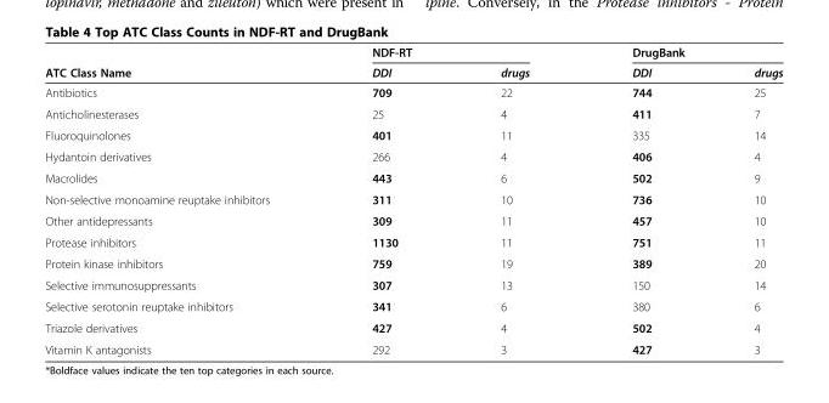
<table><thead><tr><td rowspan="2">ATC Class Name</td><td colspan="2">NDF-RT</td><td colspan="2">DrugBank</td></tr><tr><td>DDI</td><td>drugs</td><td>DDI</td><td>drugs</td></tr></thead><tbody><tr><td>Antibiotics</td><td>709</td><td>22</td><td>744</td><td>25</td></tr><tr><td>Anticholinesterases</td><td>25</td><td>4</td><td>411</td><td>7</td></tr><tr><td>Fluoroquinolones</td><td>401</td><td>11</td><td>335</td><td>14</td></tr><tr><td>Hydantoin derivatives</td><td>266</td><td>4</td><td>406</td><td>4</td></tr><tr><td>Macrolides</td><td>443</td><td>6</td><td>502</td><td>9</td></tr><tr><td>Non-selective monoamine reuptake inhibitors</td><td>311</td><td>10</td><td>736</td><td>10</td></tr><tr><td>Other antidepressants</td><td>309</td><td>11</td><td>457</td><td>10</td></tr><tr><td>Protease inhibitors</td><td>1130</td><td>11</td><td>751</td><td>11</td></tr><tr><td>Protein kinase inhibitors</td><td>759</td><td>19</td><td>389</td><td>20</td></tr><tr><td>Selective immunosuppressants</td><td>307</td><td>13</td><td>150</td><td>14</td></tr><tr><td>Selective serotonin reuptake inhibitors</td><td>341</td><td>6</td><td>380</td><td>6</td></tr><tr><td>Triazole derivatives</td><td>427</td><td>4</td><td>502</td><td>4</td></tr><tr><td>Vitamin K antagonists</td><td>292</td><td>3</td><td>427</td><td>3</td></tr></tbody></table>